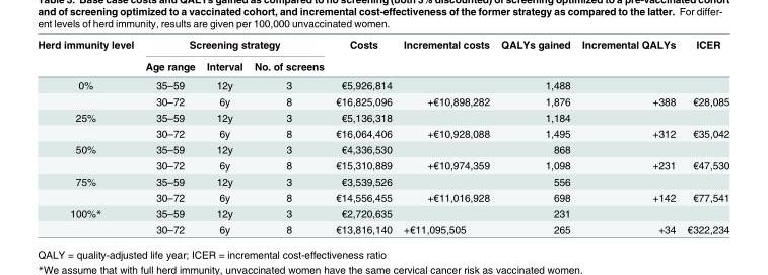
<table><thead><tr><td rowspan="2">Herd immunity level</td><td colspan="3">Screening strategy</td><td rowspan="2">Costs</td><td rowspan="2">Incremental costs</td><td rowspan="2">QALYs gained</td><td rowspan="2">Incremental QALYs</td><td rowspan="2">ICER</td></tr><tr><td>Age range</td><td>Interval</td><td>No. of screens</td></tr></thead><tbody><tr><td rowspan="2">0%</td><td>35–59</td><td>12y</td><td>3</td><td>€5,926,814</td><td></td><td>1,488</td><td></td><td></td></tr><tr><td>30–72</td><td>6y</td><td>8</td><td>€16,825,096</td><td>+€10,898,282</td><td>1,876</td><td>+388</td><td>€28,085</td></tr><tr><td rowspan="2">25%</td><td>35–59</td><td>12y</td><td>3</td><td>€5,136,318</td><td></td><td>1,184</td><td></td><td></td></tr><tr><td>30–72</td><td>6y</td><td>8</td><td>€16,064,406</td><td>+€10,928,088</td><td>1,495</td><td>+312</td><td>€35,042</td></tr><tr><td rowspan="2">50%</td><td>35–59</td><td>12y</td><td>3</td><td>€4,336,530</td><td></td><td>868</td><td></td><td></td></tr><tr><td>30–72</td><td>6y</td><td>8</td><td>€15,310,889</td><td>+€10,974,359</td><td>1,098</td><td>+231</td><td>€47,530</td></tr><tr><td rowspan="2">75%</td><td>35–59</td><td>12y</td><td>3</td><td>€3,539,526</td><td></td><td>556</td><td></td><td></td></tr><tr><td>30–72</td><td>6y</td><td>8</td><td>€14,556,455</td><td>+€11,016,928</td><td>698</td><td>+142</td><td>€77,541</td></tr><tr><td rowspan="2">100%*</td><td>35–59</td><td>12y</td><td>3</td><td>€2,720,635</td><td></td><td>231</td><td></td><td></td></tr><tr><td>30–72</td><td>6y</td><td>8</td><td>€13,816,140</td><td>+€11,095,505</td><td>265</td><td>+34</td><td>€322,234</td></tr></tbody></table>